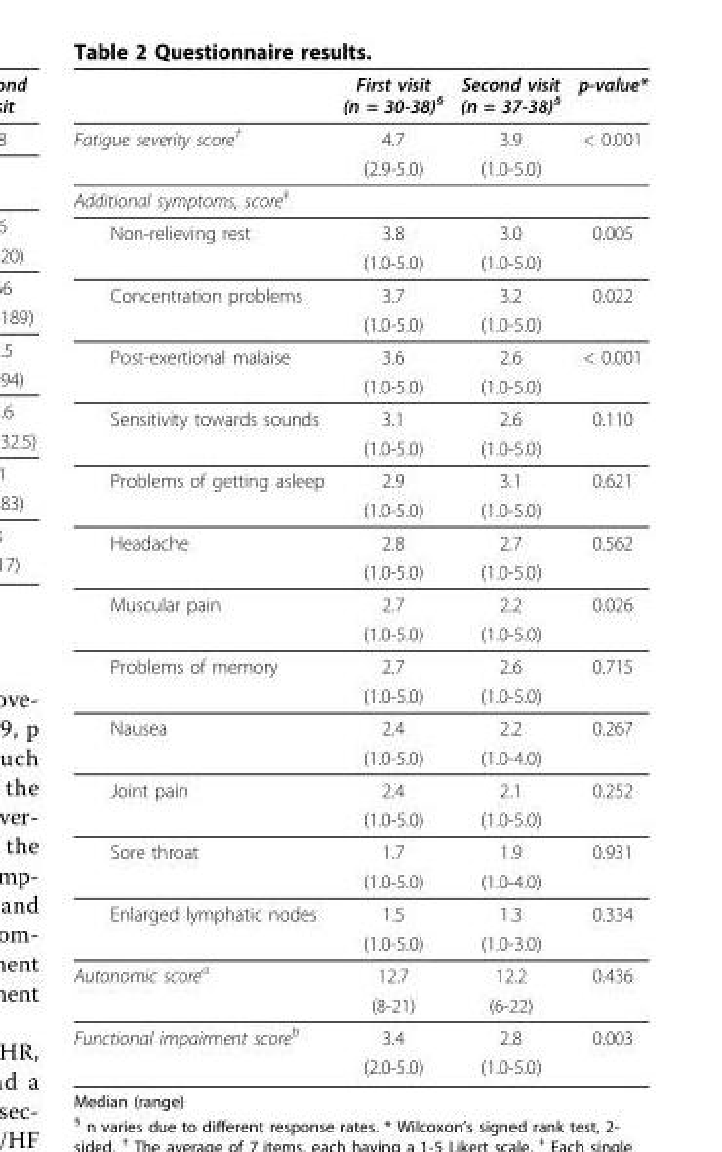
<table><thead><tr><td></td><td>First visit (n = 30-38)<sup>§</sup></td><td>Second visit (n = 37-38)<sup>§</sup></td><td>p-value*</td></tr></thead><tbody><tr><td rowspan="2">Fatigue severity score<sup>†</sup></td><td>4.7</td><td>3.9</td><td>&lt; 0.001</td></tr><tr><td>(2.9-5.0)</td><td>(1.0-5.0)</td><td></td></tr><tr><td colspan="4">Additional symptoms, score<sup>‡</sup></td></tr><tr><td rowspan="2">Non-relieving rest</td><td>3.8</td><td>3.0</td><td>0.005</td></tr><tr><td>(1.0-5.0)</td><td>(1.0-5.0)</td><td></td></tr><tr><td rowspan="2">Concentration problems</td><td>3.7</td><td>3.2</td><td>0.022</td></tr><tr><td>(1.0-5.0)</td><td>(1.0-5.0)</td><td></td></tr><tr><td rowspan="2">Post-exertional malaise</td><td>3.6</td><td>2.6</td><td>&lt; 0.001</td></tr><tr><td>(1.0-5.0)</td><td>(1.0-5.0)</td><td></td></tr><tr><td rowspan="2">Sensitivity towards sounds</td><td>3.1</td><td>2.6</td><td>0.110</td></tr><tr><td>(1.0-5.0)</td><td>(1.0-5.0)</td><td></td></tr><tr><td rowspan="2">Problems of getting asleep</td><td>2.9</td><td>3.1</td><td>0.621</td></tr><tr><td>(1.0-5.0)</td><td>(1.0-5.0)</td><td></td></tr><tr><td rowspan="2">Headache</td><td>2.8</td><td>2.7</td><td>0.562</td></tr><tr><td>(1.0-5.0)</td><td>(1.0-5.0)</td><td></td></tr><tr><td rowspan="2">Muscular pain</td><td>2.7</td><td>2.2</td><td>0.026</td></tr><tr><td>(1.0-5.0)</td><td>(1.0-5.0)</td><td></td></tr><tr><td rowspan="2">Problems of memory</td><td>2.7</td><td>2.6</td><td>0.715</td></tr><tr><td>(1.0-5.0)</td><td>(1.0-5.0)</td><td></td></tr><tr><td rowspan="2">Nausea</td><td>2.4</td><td>2.2</td><td>0.267</td></tr><tr><td>(1.0-5.0)</td><td>(1.0-4.0)</td><td></td></tr><tr><td rowspan="2">Joint pain</td><td>2.4</td><td>2.1</td><td>0.252</td></tr><tr><td>(1.0-5.0)</td><td>(1.0-5.0)</td><td></td></tr><tr><td rowspan="2">Sore throat</td><td>1.7</td><td>1.9</td><td>0.931</td></tr><tr><td>(1.0-5.0)</td><td>(1.0-4.0)</td><td></td></tr><tr><td rowspan="2">Enlarged lymphatic nodes</td><td>1.5</td><td>1.3</td><td>0.334</td></tr><tr><td>(1.0-5.0)</td><td>(1.0-3.0)</td><td></td></tr><tr><td rowspan="2">Autonomic score<sup>a</sup></td><td>12.7</td><td>12.2</td><td>0.436</td></tr><tr><td>(8-21)</td><td>(6-22)</td><td></td></tr><tr><td rowspan="2">Functional impairment score<sup>b</sup></td><td>3.4</td><td>2.8</td><td>0.003</td></tr><tr><td>(2.0-5.0)</td><td>(1.0-5.0)</td><td></td></tr></tbody></table>